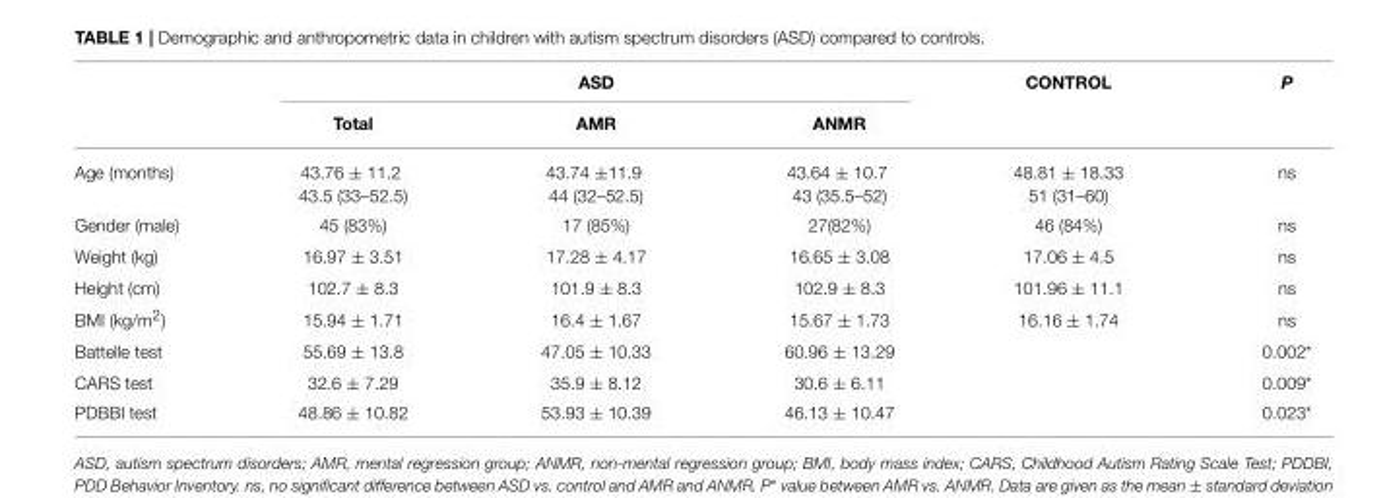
<table><thead><tr><td rowspan="2"></td><td colspan="3">ASD</td><td rowspan="2">CONTROL</td><td rowspan="2">P</td></tr><tr><td>Total</td><td>AMR</td><td>ANMR</td></tr></thead><tbody><tr><td>Age (months)</td><td>43.76 ± 11.2 43.5 (33–52.5)</td><td>43.74 ±11.9 44 (32–52.5)</td><td>43.64 ± 10.7 43 (35.5–52)</td><td>48.81 ± 18.33 51 (31–60)</td><td>ns</td></tr><tr><td>Gender (male)</td><td>45 (83%)</td><td>17 (85%)</td><td>27(82%)</td><td>46 (84%)</td><td>ns</td></tr><tr><td>Weight (kg)</td><td>16.97 ± 3.51</td><td>17.28 ± 4.17</td><td>16.65 ± 3.08</td><td>17.06 ± 4.5</td><td>ns</td></tr><tr><td>Height (cm)</td><td>102.7 ± 8.3</td><td>101.9 ± 8.3</td><td>102.9 ± 8.3</td><td>101.96 ± 11.1</td><td>ns</td></tr><tr><td>BMI (kg/m<sup>2</sup>)</td><td>15.94 ± 1.71</td><td>16.4 ± 1.67</td><td>15.67 ± 1.73</td><td>16.16 ± 1.74</td><td>ns</td></tr><tr><td>Battelle test</td><td>55.69 ± 13.8</td><td>47.05 ± 10.33</td><td>60.96 ± 13.29</td><td></td><td>0.002*</td></tr><tr><td>CARS test</td><td>32.6 ± 7.29</td><td>35.9 ± 8.12</td><td>30.6 ± 6.11</td><td></td><td>0.009*</td></tr><tr><td>PDBBI test</td><td>48.86 ± 10.82</td><td>53.93 ± 10.39</td><td>46.13 ± 10.47</td><td></td><td>0.023*</td></tr></tbody></table>